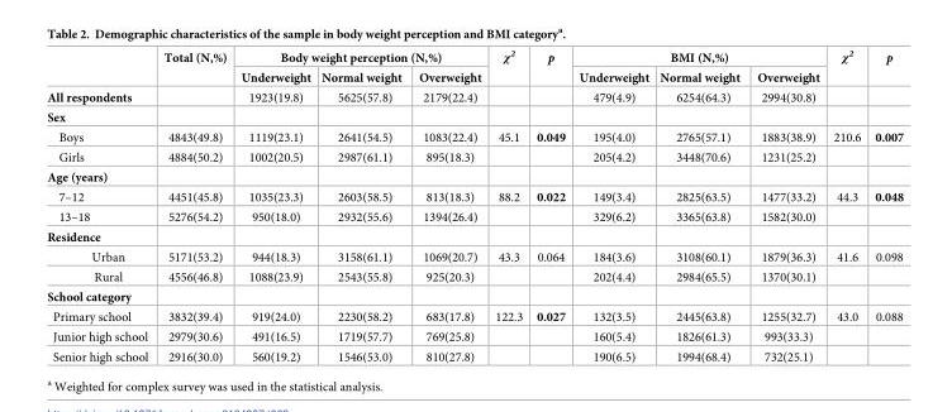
<table><thead><tr><td rowspan="2"></td><td rowspan="2">Total (N,%)</td><td colspan="3">Body weight perception (N,%)</td><td rowspan="2">χ<sup>2</sup></td><td rowspan="2">p</td><td colspan="3">BMI (N,%)</td><td rowspan="2">χ<sup>2</sup></td><td rowspan="2">p</td></tr><tr><td>Underweight</td><td>Normal weight</td><td>Overweight</td><td>Underweight</td><td>Normal weight</td><td>Overweight</td></tr></thead><tbody><tr><td>All respondents</td><td></td><td>1923(19.8)</td><td>5625(57.8)</td><td>2179(22.4)</td><td></td><td></td><td>479(4.9)</td><td>6254(64.3)</td><td>2994(30.8)</td><td></td><td></td></tr><tr><td colspan="12">Sex</td></tr><tr><td>Boys</td><td>4843(49.8)</td><td>1119(23.1)</td><td>2641(54.5)</td><td>1083(22.4)</td><td>45.1</td><td>0.049</td><td>195(4.0)</td><td>2765(57.1)</td><td>1883(38.9)</td><td>210.6</td><td>0.007</td></tr><tr><td>Girls</td><td>4884(50.2)</td><td>1002(20.5)</td><td>2987(61.1)</td><td>895(18.3)</td><td></td><td></td><td>205(4.2)</td><td>3448(70.6)</td><td>1231(25.2)</td><td></td><td></td></tr><tr><td colspan="12">Age (years)</td></tr><tr><td>7–12</td><td>4451(45.8)</td><td>1035(23.3)</td><td>2603(58.5)</td><td>813(18.3)</td><td>88.2</td><td>0.022</td><td>149(3.4)</td><td>2825(63.5)</td><td>1477(33.2)</td><td>44.3</td><td>0.048</td></tr><tr><td>13–18</td><td>5276(54.2)</td><td>950(18.0)</td><td>2932(55.6)</td><td>1394(26.4)</td><td></td><td></td><td>329(6.2)</td><td>3365(63.8)</td><td>1582(30.0)</td><td></td><td></td></tr><tr><td colspan="12">Residence</td></tr><tr><td>Urban</td><td>5171(53.2)</td><td>944(18.3)</td><td>3158(61.1)</td><td>1069(20.7)</td><td>43.3</td><td>0.064</td><td>184(3.6)</td><td>3108(60.1)</td><td>1879(36.3)</td><td>41.6</td><td>0.098</td></tr><tr><td>Rural</td><td>4556(46.8)</td><td>1088(23.9)</td><td>2543(55.8)</td><td>925(20.3)</td><td></td><td></td><td>202(4.4)</td><td>2984(65.5)</td><td>1370(30.1)</td><td></td><td></td></tr><tr><td colspan="12">School category</td></tr><tr><td>Primary school</td><td>3832(39.4)</td><td>919(24.0)</td><td>2230(58.2)</td><td>683(17.8)</td><td>122.3</td><td>0.027</td><td>132(3.5)</td><td>2445(63.8)</td><td>1255(32.7)</td><td>43.0</td><td>0.088</td></tr><tr><td>Junior high school</td><td>2979(30.6)</td><td>491(16.5)</td><td>1719(57.7)</td><td>769(25.8)</td><td></td><td></td><td>160(5.4)</td><td>1826(61.3)</td><td>993(33.3)</td><td></td><td></td></tr><tr><td>Senior high school</td><td>2916(30.0)</td><td>560(19.2)</td><td>1546(53.0)</td><td>810(27.8)</td><td></td><td></td><td>190(6.5)</td><td>1994(68.4)</td><td>732(25.1)</td><td></td><td></td></tr></tbody></table>